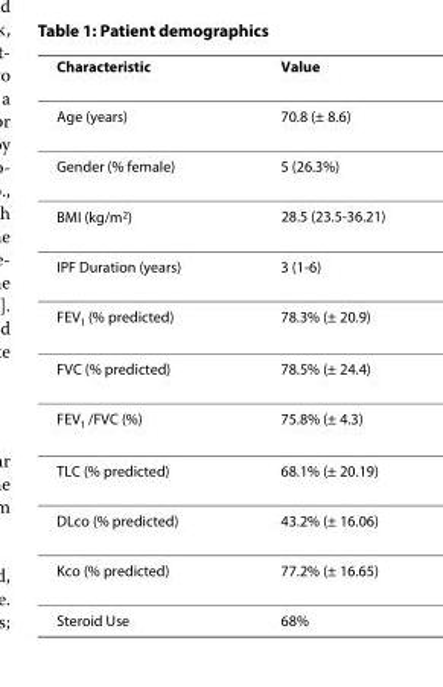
<table><thead><tr><td>Characteristic</td><td>Value</td></tr></thead><tbody><tr><td>Age (years)</td><td>70.8 (± 8.6)</td></tr><tr><td>Gender (% female)</td><td>5 (26.3%)</td></tr><tr><td>BMI (kg/m<sup>2</sup>)</td><td>28.5 (23.5-36.21)</td></tr><tr><td>IPF Duration (years)</td><td>3 (1-6)</td></tr><tr><td>FEV<sub>1</sub> (% predicted)</td><td>78.3% (± 20.9)</td></tr><tr><td>FVC (% predicted)</td><td>78.5% (± 24.4)</td></tr><tr><td>FEV<sub>1</sub> /FVC (%)</td><td>75.8% (± 4.3)</td></tr><tr><td>TLC (% predicted)</td><td>68.1% (± 20.19)</td></tr><tr><td>DLco (% predicted)</td><td>43.2% (± 16.06)</td></tr><tr><td>Kco (% predicted)</td><td>77.2% (± 16.65)</td></tr><tr><td>Steroid Use</td><td>68%</td></tr></tbody></table>